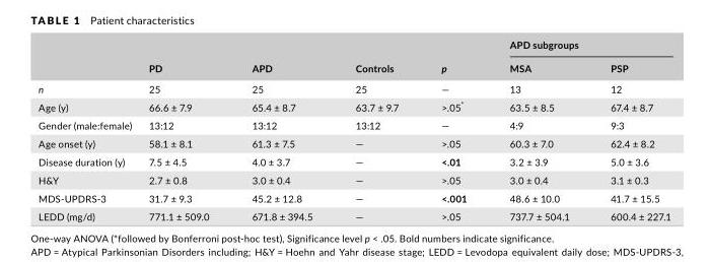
<table><thead><tr><td rowspan="2"></td><td rowspan="2">PD</td><td rowspan="2">APD</td><td rowspan="2">Controls</td><td rowspan="2">p</td><td colspan="2">APD subgroups</td></tr><tr><td>MSA</td><td>PSP</td></tr></thead><tbody><tr><td>n</td><td>25</td><td>25</td><td>25</td><td>—</td><td>13</td><td>12</td></tr><tr><td>Age (y)</td><td>66.6 ± 7.9</td><td>65.4 ± 8.7</td><td>63.7 ± 9.7</td><td>&gt;.05*</td><td>63.5 ± 8.5</td><td>67.4 ± 8.7</td></tr><tr><td>Gender (male:female)</td><td>13:12</td><td>13:12</td><td>13:12</td><td>—</td><td>4:9</td><td>9:3</td></tr><tr><td>Age onset (y)</td><td>58.1 ± 8.1</td><td>61.3 ± 7.5</td><td>—</td><td>&gt;.05</td><td>60.3 ± 7.0</td><td>62.4 ± 8.2</td></tr><tr><td>Disease duration (y)</td><td>7.5 ± 4.5</td><td>4.0 ± 3.7</td><td>—</td><td>&lt;.01</td><td>3.2 ± 3.9</td><td>5.0 ± 3.6</td></tr><tr><td>H&amp;Y</td><td>2.7 ± 0.8</td><td>3.0 ± 0.4</td><td>—</td><td>&gt;.05</td><td>3.0 ± 0.4</td><td>3.1 ± 0.3</td></tr><tr><td>MDS- UPDRS- 3</td><td>31.7 ± 9.3</td><td>45.2 ± 12.8</td><td>—</td><td>&lt;.001</td><td>48.6 ± 10.0</td><td>41.7 ± 15.5</td></tr><tr><td>LEDD (mg/d)</td><td>771.1 ± 509.0</td><td>671.8 ± 394.5</td><td>—</td><td>&gt;.05</td><td>737.7 ± 504.1</td><td>600.4 ± 227.1</td></tr></tbody></table>